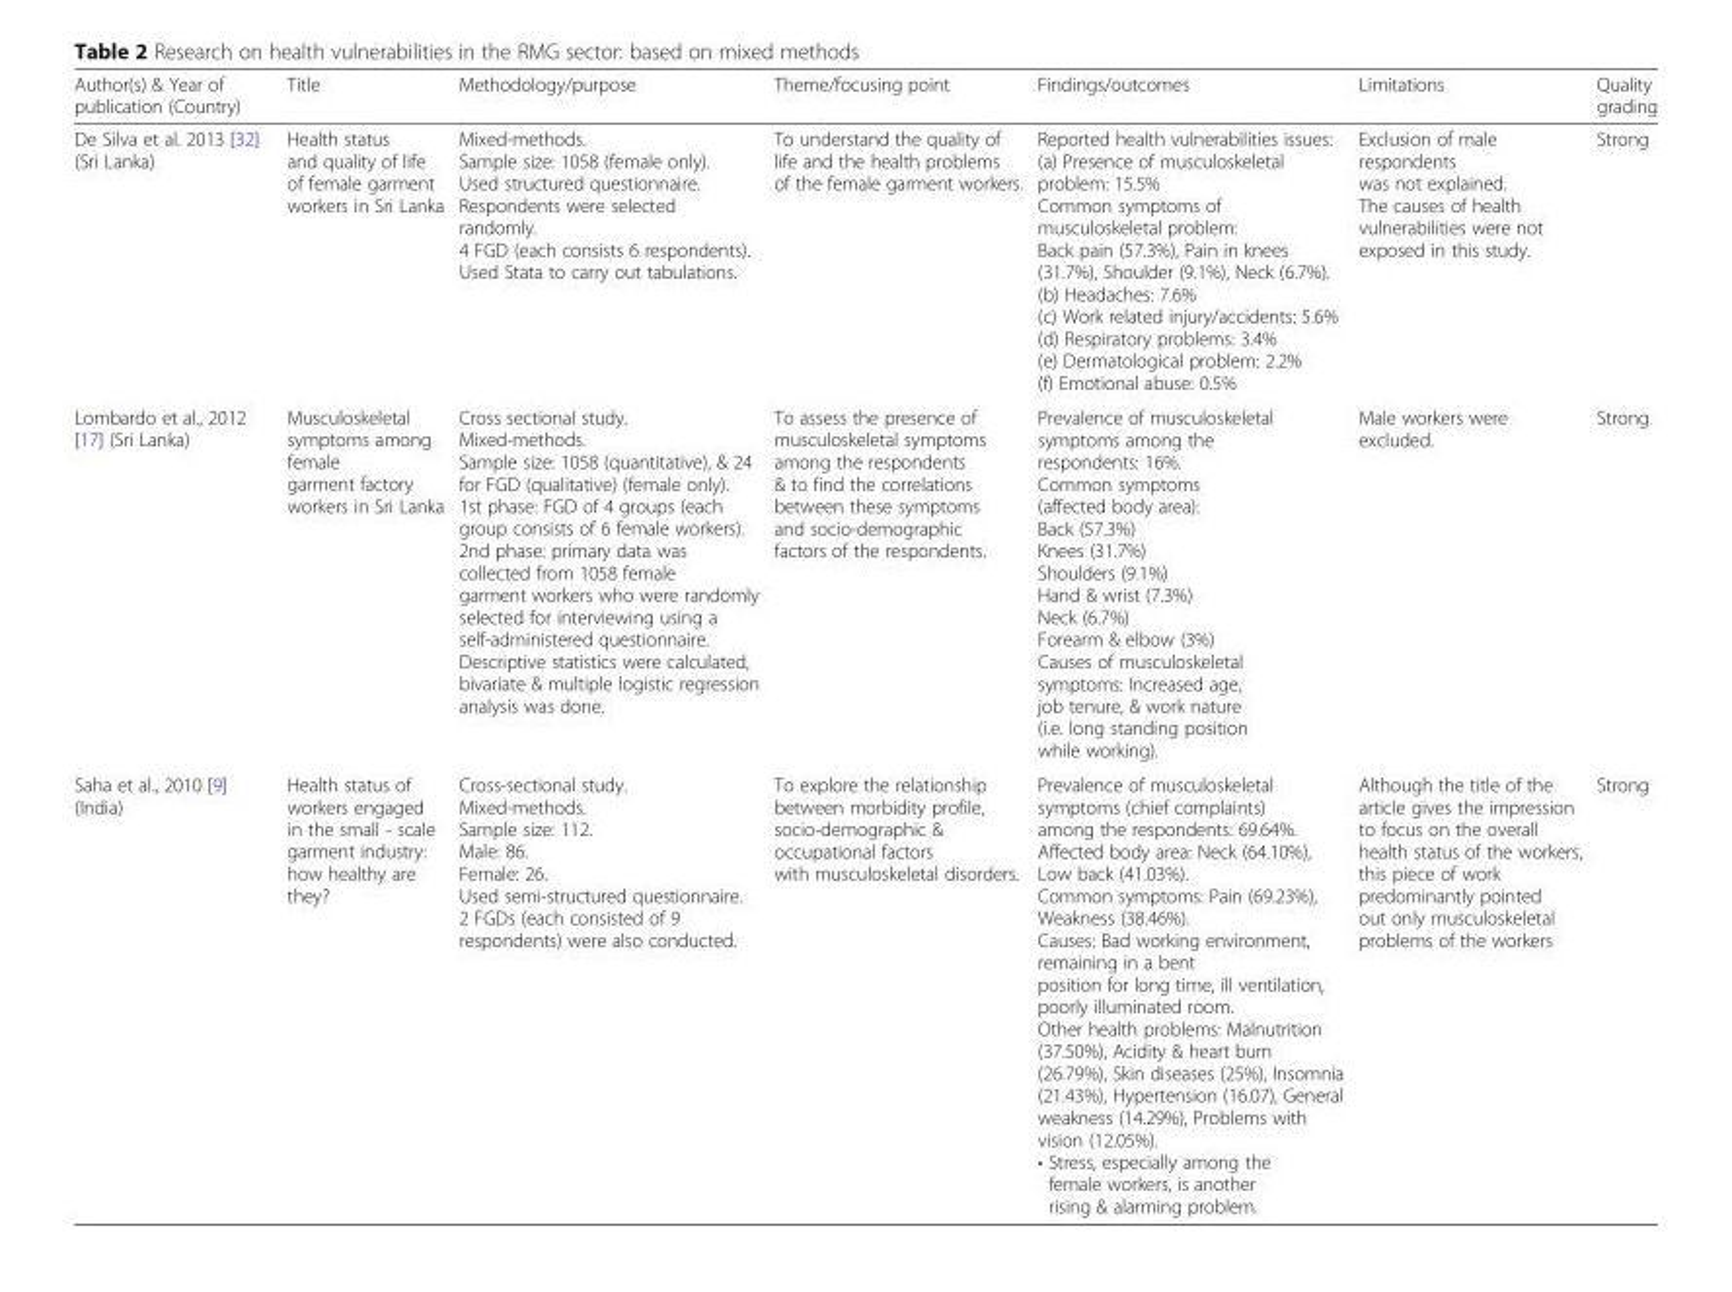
<table><thead><tr><td>Author(s) &amp; Year of publication (Country)</td><td>Title</td><td>Methodology/purpose</td><td>Theme/focusing point</td><td>Findings/outcomes</td><td>Limitations</td><td>Quality grading</td></tr></thead><tbody><tr><td>De Silva et al. 2013 [32] (Sri Lanka)</td><td>Health status and quality of life of female garment workers in Sri Lanka</td><td>Mixed-methods. Sample size: 1058 (female only). Used structured questionnaire. Respondents were selected randomly. 4 FGD (each consists 6 respondents). Used Stata to carry out tabulations.</td><td>To understand the quality of life and the health problems of the female garment workers.</td><td>Reported health vulnerabilities issues: (a) Presence of musculoskeletal problem: 15.5% Common symptoms of musculoskeletal problem: Back pain (57.3%), Pain in knees (31.7%), Shoulder (9.1%), Neck (6.7%). (b) Headaches: 7.6% (c) Work related injury/accidents: 5.6% (d) Respiratory problems: 3.4% (e) Dermatological problem: 2.2% (f) Emotional abuse: 0.5%</td><td>Exclusion of male respondents was not explained. The causes of health vulnerabilities were not exposed in this study.</td><td>Strong</td></tr><tr><td>Lombardo et al., 2012 [17] (Sri Lanka)</td><td>Musculoskeletal symptoms among female garment factory workers in Sri Lanka</td><td>Cross sectional study. Mixed-methods. Sample size: 1058 (quantitative), &amp; 24 for FGD (qualitative) (female only). 1st phase: FGD of 4 groups (each group consists of 6 female workers). 2nd phase: primary data was collected from 1058 female garment workers who were randomly selected for interviewing using a self-administered questionnaire. Descriptive statistics were calculated, bivariate &amp; multiple logistic regression analysis was done.</td><td>To assess the presence of musculoskeletal symptoms among the respondents &amp; to find the correlations between these symptoms and socio-demographic factors of the respondents.</td><td>Prevalence of musculoskeletal symptoms among the respondents: 16%. Common symptoms (affected body area): Back (57.3%) Knees (31.7%) Shoulders (9.1%) Hand &amp; wrist (7.3%) Neck (6.7%) Forearm &amp; elbow (3%) Causes of musculoskeletal symptoms: Increased age, job tenure, &amp; work nature (i.e. long standing position while working).</td><td>Male workers were excluded.</td><td>Strong</td></tr><tr><td>Saha et al., 2010 [9] (India)</td><td>Health status of workers engaged in the small - scale garment industry: how healthy are they?</td><td>Cross-sectional study. Mixed-methods. Sample size: 112. Male: 86. Female: 26. Used semi-structured questionnaire. 2 FGDs (each consisted of 9 respondents) were also conducted.</td><td>To explore the relationship between morbidity profile, socio-demographic &amp; occupational factors with musculoskeletal disorders.</td><td>Prevalence of musculoskeletal symptoms (chief complaints) among the respondents: 69.64%. Affected body area: Neck (64.10%), Low back (41.03%). Common symptoms: Pain (69.23%), Weakness (38.46%). Causes: Bad working environment, remaining in a bent position for long time, ill ventilation, poorly illuminated room. Other health problems: Malnutrition (37.50%), Acidity &amp; heart burn (26.79%), Skin diseases (25%), Insomnia (21.43%), Hypertension (16.07), General weakness (14.29%), Problems with vision (12.05%). • Stress, especially among the female workers, is another rising &amp; alarming problem.</td><td>Although the title of the article gives the impression to focus on the overall health status of the workers, this piece of work predominantly pointed out only musculoskeletal problems of the workers</td><td>Strong</td></tr></tbody></table>